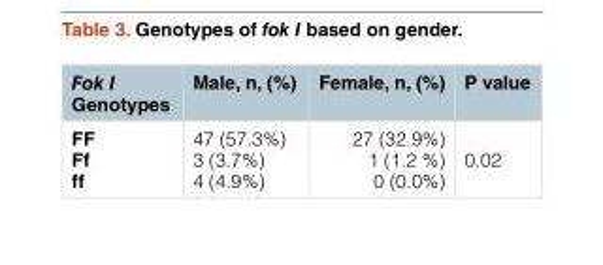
<table><thead><tr><td>Fok I Genotypes</td><td>Male, n, (%)</td><td>Female, n, (%)</td><td>P value</td></tr></thead><tbody><tr><td>FF Ff ff</td><td>47 (57.3%) 3 (3.7%) 4 (4.9%)</td><td>27 (32.9%) 1 (1.2 %) 0 (0.0%)</td><td>0.02</td></tr></tbody></table>